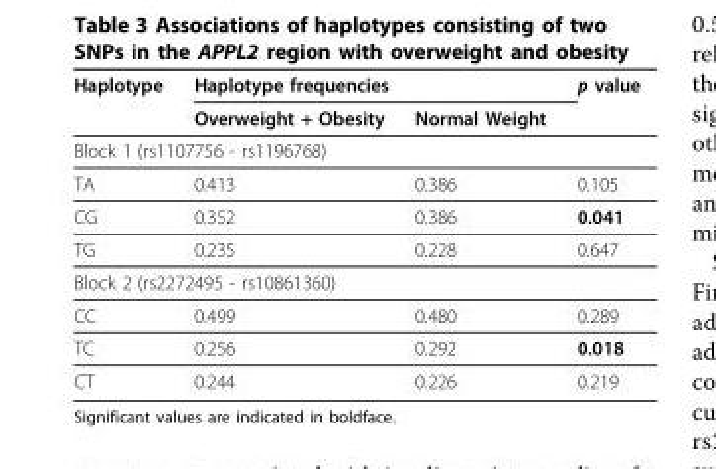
<table><thead><tr><td rowspan="2">Haplotype</td><td colspan="2">Haplotype frequencies</td><td rowspan="2">p value</td></tr><tr><td>Overweight + Obesity</td><td>Normal Weight</td></tr></thead><tbody><tr><td colspan="4">Block 1 (rs1107756 - rs1196768)</td></tr><tr><td>TA</td><td>0.413</td><td>0.386</td><td>0.105</td></tr><tr><td>CG</td><td>0.352</td><td>0.386</td><td>0.041</td></tr><tr><td>TG</td><td>0.235</td><td>0.228</td><td>0.647</td></tr><tr><td colspan="4">Block 2 (rs2272495 - rs10861360)</td></tr><tr><td>CC</td><td>0.499</td><td>0.480</td><td>0.289</td></tr><tr><td>TC</td><td>0.256</td><td>0.292</td><td>0.018</td></tr><tr><td>CT</td><td>0.244</td><td>0.226</td><td>0.219</td></tr></tbody></table>